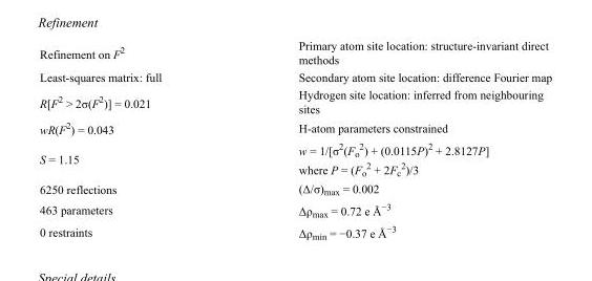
<table><tbody><tr><td>Refinement on F<sup>2</sup></td><td>Primary atom site location: structure-invariant direct methods</td></tr><tr><td>Least-squares matrix: full</td><td>Secondary atom site location: difference Fourier map</td></tr><tr><td>R[F<sup>2</sup> &gt; 2σ(F<sup>2</sup>)] = 0.021</td><td>Hydrogen site location: inferred from neighbouring sites</td></tr><tr><td>wR(F<sup>2</sup>) = 0.043</td><td>H-atom parameters constrained</td></tr><tr><td>S = 1.15</td><td>w = 1/[σ<sup>2</sup>(F<sub>o</sub> <sup>2</sup>) + (0.0115P)<sup>2</sup> + 2.8127P] where P = (F<sub>o</sub> <sup>2</sup> + 2F<sub>c</sub> <sup>2</sup>)/3</td></tr><tr><td>6250 reflections</td><td>(Δ/σ)<sub>max</sub> = 0.002</td></tr><tr><td>463 parameters</td><td>Δρ<sub>max</sub> = 0.72 e Å<sup>−3</sup></td></tr><tr><td>0 restraints</td><td>Δρ<sub>min</sub> = −0.37 e Å<sup>−3</sup></td></tr></tbody></table>